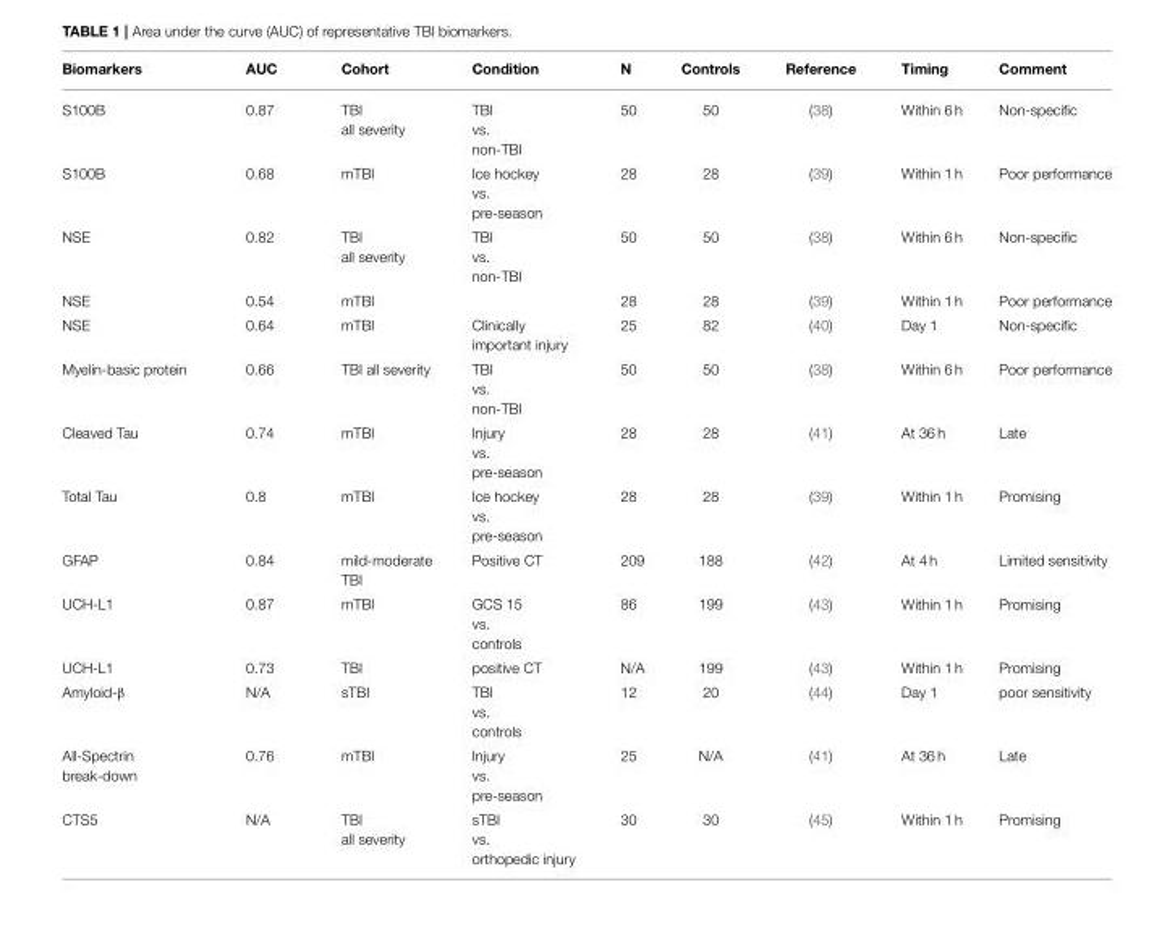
<table><thead><tr><td>Biomarkers</td><td>AUC</td><td>Cohort</td><td>Condition</td><td>N</td><td>Controls</td><td>Reference</td><td>Timing</td><td>Comment</td></tr></thead><tbody><tr><td>S100B</td><td>0.87</td><td>TBI all severity</td><td>TBI vs. non-TBI</td><td>50</td><td>50</td><td>(38)</td><td>Within 6 h</td><td>Non-specific</td></tr><tr><td>S100B</td><td>0.68</td><td>mTBI</td><td>Ice hockey vs. pre-season</td><td>28</td><td>28</td><td>(39)</td><td>Within 1 h</td><td>Poor performance</td></tr><tr><td>NSE</td><td>0.82</td><td>TBI all severity</td><td>TBI vs. non-TBI</td><td>50</td><td>50</td><td>(38)</td><td>Within 6 h</td><td>Non-specific</td></tr><tr><td>NSE</td><td>0.54</td><td>mTBI</td><td></td><td>28</td><td>28</td><td>(39)</td><td>Within 1 h</td><td>Poor performance</td></tr><tr><td>NSE</td><td>0.64</td><td>mTBI</td><td>Clinically important injury</td><td>25</td><td>82</td><td>(40)</td><td>Day 1</td><td>Non-specific</td></tr><tr><td>Myelin-basic protein</td><td>0.66</td><td>TBI all severity</td><td>TBI vs. non-TBI</td><td>50</td><td>50</td><td>(38)</td><td>Within 6 h</td><td>Poor performance</td></tr><tr><td>Cleaved Tau</td><td>0.74</td><td>mTBI</td><td>Injury vs. pre-season</td><td>28</td><td>28</td><td>(41)</td><td>At 36 h</td><td>Late</td></tr><tr><td>Total Tau</td><td>0.8</td><td>mTBI</td><td>Ice hockey vs. pre-season</td><td>28</td><td>28</td><td>(39)</td><td>Within 1 h</td><td>Promising</td></tr><tr><td>GFAP</td><td>0.84</td><td>mild-moderate TBI</td><td>Positive CT</td><td>209</td><td>188</td><td>(42)</td><td>At 4 h</td><td>Limited sensitivity</td></tr><tr><td>UCH-L1</td><td>0.87</td><td>mTBI</td><td>GCS 15 vs. controls</td><td>86</td><td>199</td><td>(43)</td><td>Within 1 h</td><td>Promising</td></tr><tr><td>UCH-L1</td><td>0.73</td><td>TBI</td><td>positive CT</td><td>N/A</td><td>199</td><td>(43)</td><td>Within 1 h</td><td>Promising</td></tr><tr><td>Amyloid-β</td><td>N/A</td><td>sTBI</td><td>TBI vs. controls</td><td>12</td><td>20</td><td>(44)</td><td>Day 1</td><td>poor sensitivity</td></tr><tr><td>All-Spectrin break-down</td><td>0.76</td><td>mTBI</td><td>Injury vs. pre-season</td><td>25</td><td>N/A</td><td>(41)</td><td>At 36 h</td><td>Late</td></tr><tr><td>CTS5</td><td>N/A</td><td>TBI all severity</td><td>sTBI vs. orthopedic injury</td><td>30</td><td>30</td><td>(45)</td><td>Within 1 h</td><td>Promising</td></tr></tbody></table>